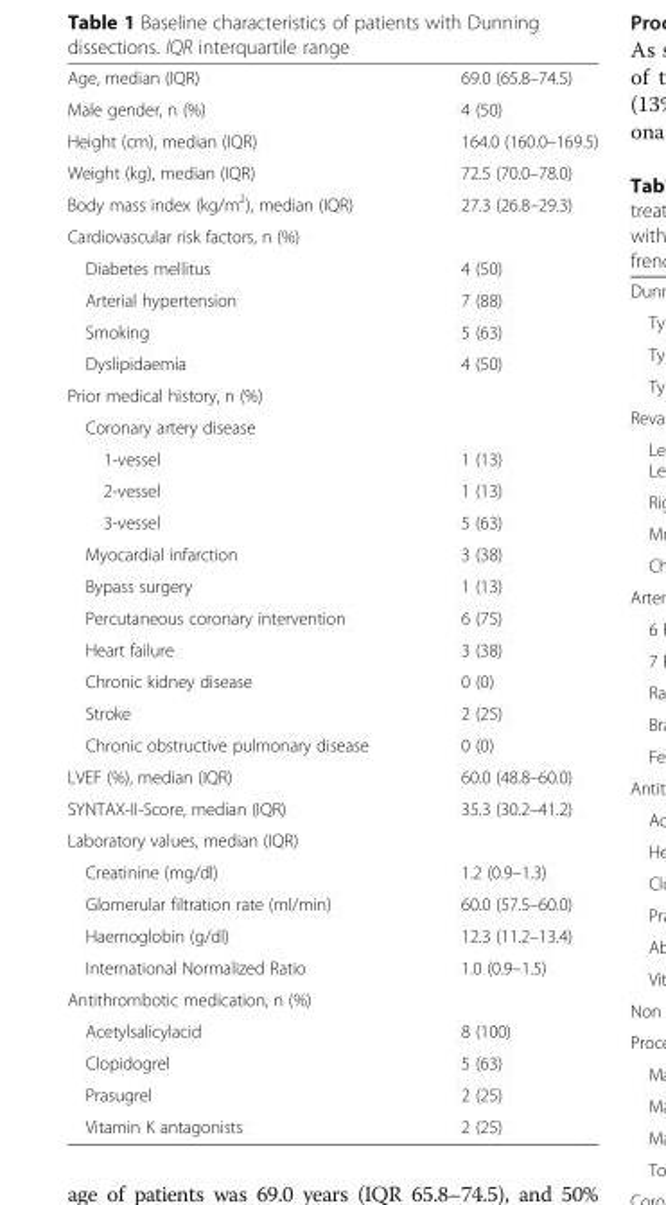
<table><tbody><tr><td>Age, median (IQR)</td><td>69.0 (65.8–74.5)</td></tr><tr><td>Male gender, n (%)</td><td>4 (50)</td></tr><tr><td>Height (cm), median (IQR)</td><td>164.0 (160.0–169.5)</td></tr><tr><td>Weight (kg), median (IQR)</td><td>72.5 (70.0–78.0)</td></tr><tr><td>Body mass index (kg/m<sup>2</sup>), median (IQR)</td><td>27.3 (26.8–29.3)</td></tr><tr><td colspan="2">Cardiovascular risk factors, n (%)</td></tr><tr><td>Diabetes mellitus</td><td>4 (50)</td></tr><tr><td>Arterial hypertension</td><td>7 (88)</td></tr><tr><td>Smoking</td><td>5 (63)</td></tr><tr><td>Dyslipidaemia</td><td>4 (50)</td></tr><tr><td colspan="2">Prior medical history, n (%)</td></tr><tr><td colspan="2">Coronary artery disease</td></tr><tr><td>1-vessel</td><td>1 (13)</td></tr><tr><td>2-vessel</td><td>1 (13)</td></tr><tr><td>3-vessel</td><td>5 (63)</td></tr><tr><td>Myocardial infarction</td><td>3 (38)</td></tr><tr><td>Bypass surgery</td><td>1 (13)</td></tr><tr><td>Percutaneous coronary intervention</td><td>6 (75)</td></tr><tr><td>Heart failure</td><td>3 (38)</td></tr><tr><td>Chronic kidney disease</td><td>0 (0)</td></tr><tr><td>Stroke</td><td>2 (25)</td></tr><tr><td>Chronic obstructive pulmonary disease</td><td>0 (0)</td></tr><tr><td>LVEF (%), median (IQR)</td><td>60.0 (48.8–60.0)</td></tr><tr><td>SYNTAX-II-Score, median (IQR)</td><td>35.3 (30.2–41.2)</td></tr><tr><td colspan="2">Laboratory values, median (IQR)</td></tr><tr><td>Creatinine (mg/dl)</td><td>1.2 (0.9–1.3)</td></tr><tr><td>Glomerular filtration rate (ml/min)</td><td>60.0 (57.5–60.0)</td></tr><tr><td>Haemoglobin (g/dl)</td><td>12.3 (11.2–13.4)</td></tr><tr><td>International Normalized Ratio</td><td>1.0 (0.9–1.5)</td></tr><tr><td colspan="2">Antithrombotic medication, n (%)</td></tr><tr><td>Acetylsalicylacid</td><td>8 (100)</td></tr><tr><td>Clopidogrel</td><td>5 (63)</td></tr><tr><td>Prasugrel</td><td>2 (25)</td></tr><tr><td>Vitamin K antagonists</td><td>2 (25)</td></tr></tbody></table>